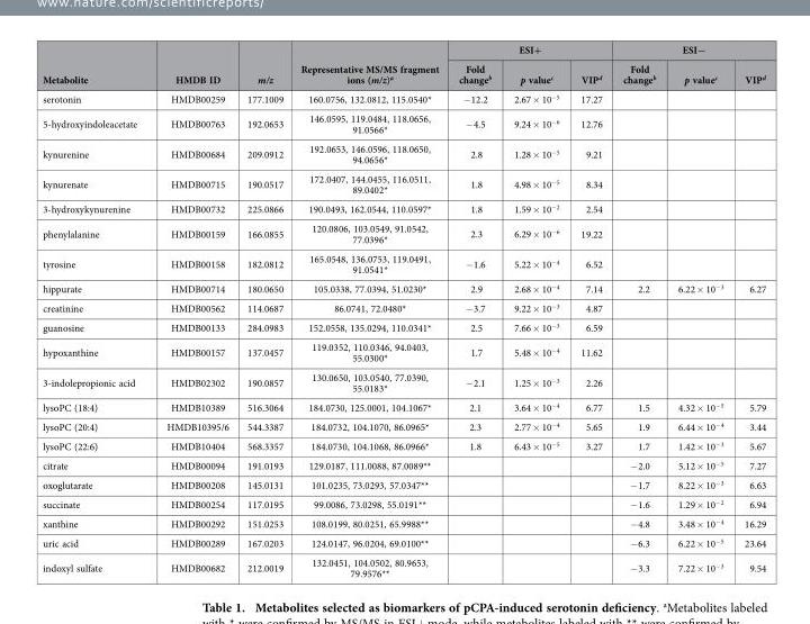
<table><thead><tr><td rowspan="2">Metabolite</td><td rowspan="2">HMDB ID</td><td rowspan="2">m/z</td><td rowspan="2">Representative MS/MS fragment ions (m/z)<sup>a</sup></td><td colspan="3">ESI+</td><td colspan="3">ESI−</td></tr><tr><td>Fold change<sup>b</sup></td><td>p value<sup>c</sup></td><td>VIP<sup>d</sup></td><td>Fold change<sup>b</sup></td><td>p value<sup>c</sup></td><td>VIP<sup>d</sup></td></tr></thead><tbody><tr><td>serotonin</td><td>HMDB00259</td><td>177.1009</td><td>160.0756, 132.0812, 115.0540*</td><td>−12.2</td><td>2.67 × 10<sup>−5</sup></td><td>17.27</td><td></td><td></td><td></td></tr><tr><td>5-hydroxyindoleacetate</td><td>HMDB00763</td><td>192.0653</td><td>146.0595, 119.0484, 118.0656, 91.0566*</td><td>−4.5</td><td>9.24 × 10<sup>−6</sup></td><td>12.76</td><td></td><td></td><td></td></tr><tr><td>kynurenine</td><td>HMDB00684</td><td>209.0912</td><td>192.0653, 146.0596, 118.0650, 94.0656*</td><td>2.8</td><td>1.28 × 10<sup>−5</sup></td><td>9.21</td><td></td><td></td><td></td></tr><tr><td>kynurenate</td><td>HMDB00715</td><td>190.0517</td><td>172.0407, 144.0455, 116.0511, 89.0402*</td><td>1.8</td><td>4.98 × 10<sup>−5</sup></td><td>8.34</td><td></td><td></td><td></td></tr><tr><td>3-hydroxykynurenine</td><td>HMDB00732</td><td>225.0866</td><td>190.0493, 162.0544, 110.0597*</td><td>1.8</td><td>1.59 × 10<sup>−2</sup></td><td>2.54</td><td></td><td></td><td></td></tr><tr><td>phenylalanine</td><td>HMDB00159</td><td>166.0855</td><td>120.0806, 103.0549, 91.0542, 77.0396*</td><td>2.3</td><td>6.29 × 10<sup>−6</sup></td><td>19.22</td><td></td><td></td><td></td></tr><tr><td>tyrosine</td><td>HMDB00158</td><td>182.0812</td><td>165.0548, 136.0753, 119.0491, 91.0541*</td><td>−1.6</td><td>5.22 × 10<sup>−4</sup></td><td>6.52</td><td></td><td></td><td></td></tr><tr><td>hippurate</td><td>HMDB00714</td><td>180.0650</td><td>105.0338, 77.0394, 51.0230*</td><td>2.9</td><td>2.68 × 10<sup>−4</sup></td><td>7.14</td><td>2.2</td><td>6.22 × 10<sup>−3</sup></td><td>6.27</td></tr><tr><td>creatinine</td><td>HMDB00562</td><td>114.0687</td><td>86.0741, 72.0480*</td><td>−3.7</td><td>9.22 × 10<sup>−3</sup></td><td>4.87</td><td></td><td></td><td></td></tr><tr><td>guanosine</td><td>HMDB00133</td><td>284.0983</td><td>152.0558, 135.0294, 110.0341*</td><td>2.5</td><td>7.66 × 10<sup>−3</sup></td><td>6.59</td><td></td><td></td><td></td></tr><tr><td>hypoxanthine</td><td>HMDB00157</td><td>137.0457</td><td>119.0352, 110.0346, 94.0403, 55.0300*</td><td>1.7</td><td>5.48 × 10<sup>−4</sup></td><td>11.62</td><td></td><td></td><td></td></tr><tr><td>3-indolepropionic acid</td><td>HMDB02302</td><td>190.0857</td><td>130.0650, 103.0540, 77.0390, 55.0183*</td><td>−2.1</td><td>1.25 × 10<sup>−3</sup></td><td>2.26</td><td></td><td></td><td></td></tr><tr><td>lysoPC (18:4)</td><td>HMDB10389</td><td>516.3064</td><td>184.0730, 125.0001, 104.1067*</td><td>2.1</td><td>3.64 × 10<sup>−4</sup></td><td>6.77</td><td>1.5</td><td>4.32 × 10<sup>−5</sup></td><td>5.79</td></tr><tr><td>lysoPC (20:4)</td><td>HMDB10395/6</td><td>544.3387</td><td>184.0732, 104.1070, 86.0965*</td><td>2.3</td><td>2.77 × 10<sup>−4</sup></td><td>5.65</td><td>1.9</td><td>6.44 × 10<sup>−4</sup></td><td>3.44</td></tr><tr><td>lysoPC (22:6)</td><td>HMDB10404</td><td>568.3357</td><td>184.0730, 104.1068, 86.0966*</td><td>1.8</td><td>6.43 × 10<sup>−5</sup></td><td>3.27</td><td>1.7</td><td>1.42 × 10<sup>−3</sup></td><td>5.67</td></tr><tr><td>citrate</td><td>HMDB00094</td><td>191.0193</td><td>129.0187, 111.0088, 87.0089**</td><td></td><td></td><td></td><td>− 2.0</td><td>5.12 × 10<sup>−5</sup></td><td>7.27</td></tr><tr><td>oxoglutarate</td><td>HMDB00208</td><td>145.0131</td><td>101.0235, 73.0293, 57.0347**</td><td></td><td></td><td></td><td>− 1.7</td><td>8.22 × 10<sup>−3</sup></td><td>6.63</td></tr><tr><td>succinate</td><td>HMDB00254</td><td>117.0195</td><td>99.0086, 73.0298, 55.0191**</td><td></td><td></td><td></td><td>− 1.6</td><td>1.29 × 10<sup>−2</sup></td><td>6.94</td></tr><tr><td>xanthine</td><td>HMDB00292</td><td>151.0253</td><td>108.0199, 80.0251, 65.9988**</td><td></td><td></td><td></td><td>− 4.8</td><td>3.48 × 10<sup>−4</sup></td><td>16.29</td></tr><tr><td>uric acid</td><td>HMDB00289</td><td>167.0203</td><td>124.0147, 96.0204, 69.0100**</td><td></td><td></td><td></td><td>− 6.3</td><td>6.22 × 10<sup>−5</sup></td><td>23.64</td></tr><tr><td>indoxyl sulfate</td><td>HMDB00682</td><td>212.0019</td><td>132.0451, 104.0502, 80.9653, 79.9576**</td><td></td><td></td><td></td><td>− 3.3</td><td>7.22 × 10<sup>−3</sup></td><td>9.54</td></tr></tbody></table>